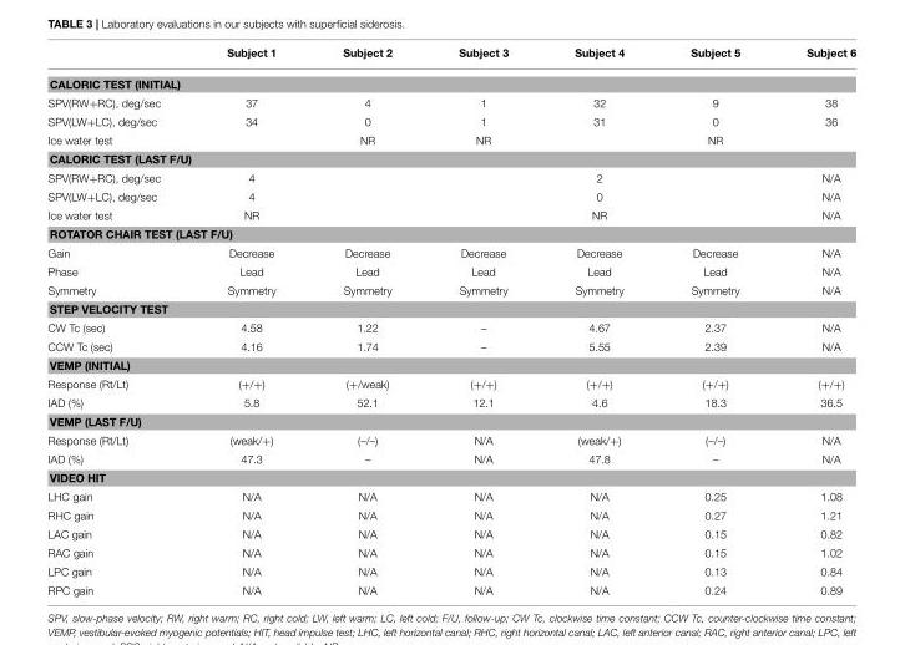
<table><thead><tr><td></td><td>Subject 1</td><td>Subject 2</td><td>Subject 3</td><td>Subject 4</td><td>Subject 5</td><td>Subject 6</td></tr></thead><tbody><tr><td colspan="7">CALORIC TEST (INITIAL)</td></tr><tr><td>SPV(RW+RC), deg/sec</td><td>37</td><td>4</td><td>1</td><td>32</td><td>9</td><td>38</td></tr><tr><td>SPV(LW+LC), deg/sec</td><td>34</td><td>0</td><td>1</td><td>31</td><td>0</td><td>36</td></tr><tr><td>Ice water test</td><td></td><td>NR</td><td>NR</td><td></td><td>NR</td><td></td></tr><tr><td colspan="7">CALORIC TEST (LAST F/U)</td></tr><tr><td>SPV(RW+RC), deg/sec</td><td>4</td><td></td><td></td><td>2</td><td></td><td>N/A</td></tr><tr><td>SPV(LW+LC), deg/sec</td><td>4</td><td></td><td></td><td>0</td><td></td><td>N/A</td></tr><tr><td>Ice water test</td><td>NR</td><td></td><td></td><td>NR</td><td></td><td>N/A</td></tr><tr><td colspan="7">ROTATOR CHAIR TEST (LAST F/U)</td></tr><tr><td>Gain</td><td>Decrease</td><td>Decrease</td><td>Decrease</td><td>Decrease</td><td>Decrease</td><td>N/A</td></tr><tr><td>Phase</td><td>Lead</td><td>Lead</td><td>Lead</td><td>Lead</td><td>Lead</td><td>N/A</td></tr><tr><td>Symmetry</td><td>Symmetry</td><td>Symmetry</td><td>Symmetry</td><td>Symmetry</td><td>Symmetry</td><td>N/A</td></tr><tr><td colspan="7">STEP VELOCITY TEST</td></tr><tr><td>CW Tc (sec)</td><td>4.58</td><td>1.22</td><td>–</td><td>4.67</td><td>2.37</td><td>N/A</td></tr><tr><td>CCW Tc (sec)</td><td>4.16</td><td>1.74</td><td>–</td><td>5.55</td><td>2.39</td><td>N/A</td></tr><tr><td colspan="7">VEMP (INITIAL)</td></tr><tr><td>Response (Rt/Lt)</td><td>(+/+)</td><td>(+/weak)</td><td>(+/+)</td><td>(+/+)</td><td>(+/+)</td><td>(+/+)</td></tr><tr><td>IAD (%)</td><td>5.8</td><td>52.1</td><td>12.1</td><td>4.6</td><td>18.3</td><td>36.5</td></tr><tr><td colspan="7">VEMP (LAST F/U)</td></tr><tr><td>Response (Rt/Lt)</td><td>(weak/+)</td><td>(–/–)</td><td>N/A</td><td>(weak/+)</td><td>(–/–)</td><td>N/A</td></tr><tr><td>IAD (%)</td><td>47.3</td><td>–</td><td>N/A</td><td>47.8</td><td>–</td><td>N/A</td></tr><tr><td colspan="7">VIDEO HIT</td></tr><tr><td>LHC gain</td><td>N/A</td><td>N/A</td><td>N/A</td><td>N/A</td><td>0.25</td><td>1.08</td></tr><tr><td>RHC gain</td><td>N/A</td><td>N/A</td><td>N/A</td><td>N/A</td><td>0.27</td><td>1.21</td></tr><tr><td>LAC gain</td><td>N/A</td><td>N/A</td><td>N/A</td><td>N/A</td><td>0.15</td><td>0.82</td></tr><tr><td>RAC gain</td><td>N/A</td><td>N/A</td><td>N/A</td><td>N/A</td><td>0.15</td><td>1.02</td></tr><tr><td>LPC gain</td><td>N/A</td><td>N/A</td><td>N/A</td><td>N/A</td><td>0.13</td><td>0.84</td></tr><tr><td>RPC gain</td><td>N/A</td><td>N/A</td><td>N/A</td><td>N/A</td><td>0.24</td><td>0.89</td></tr></tbody></table>